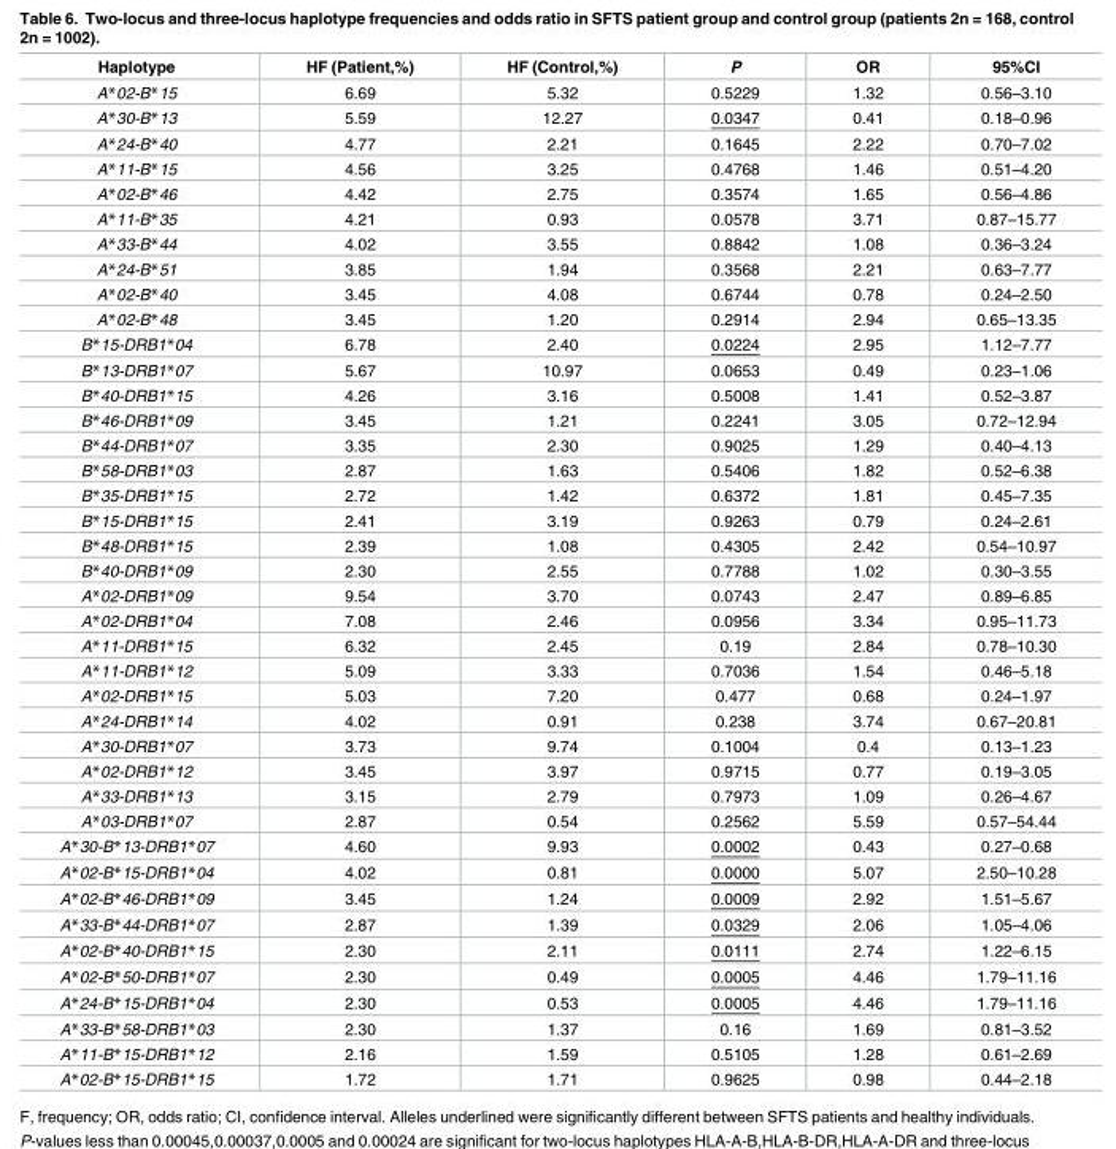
<table><thead><tr><td>Haplotype</td><td>HF (Patient,%)</td><td>HF (Control,%)</td><td>P</td><td>OR</td><td>95%CI</td></tr></thead><tbody><tr><td>A*02-B*15</td><td>6.69</td><td>5.32</td><td>0.5229</td><td>1.32</td><td>0.56–3.10</td></tr><tr><td>A*30-B*13</td><td>5.59</td><td>12.27</td><td>0.0347</td><td>0.41</td><td>0.18–0.96</td></tr><tr><td>A*24-B*40</td><td>4.77</td><td>2.21</td><td>0.1645</td><td>2.22</td><td>0.70–7.02</td></tr><tr><td>A*11-B*15</td><td>4.56</td><td>3.25</td><td>0.4768</td><td>1.46</td><td>0.51–4.20</td></tr><tr><td>A*02-B*46</td><td>4.42</td><td>2.75</td><td>0.3574</td><td>1.65</td><td>0.56–4.86</td></tr><tr><td>A*11-B*35</td><td>4.21</td><td>0.93</td><td>0.0578</td><td>3.71</td><td>0.87–15.77</td></tr><tr><td>A*33-B*44</td><td>4.02</td><td>3.55</td><td>0.8842</td><td>1.08</td><td>0.36–3.24</td></tr><tr><td>A*24-B*51</td><td>3.85</td><td>1.94</td><td>0.3568</td><td>2.21</td><td>0.63–7.77</td></tr><tr><td>A*02-B*40</td><td>3.45</td><td>4.08</td><td>0.6744</td><td>0.78</td><td>0.24–2.50</td></tr><tr><td>A*02-B*48</td><td>3.45</td><td>1.20</td><td>0.2914</td><td>2.94</td><td>0.65–13.35</td></tr><tr><td>B*15-DRB1*04</td><td>6.78</td><td>2.40</td><td>0.0224</td><td>2.95</td><td>1.12–7.77</td></tr><tr><td>B*13-DRB1*07</td><td>5.67</td><td>10.97</td><td>0.0653</td><td>0.49</td><td>0.23–1.06</td></tr><tr><td>B*40-DRB1*15</td><td>4.26</td><td>3.16</td><td>0.5008</td><td>1.41</td><td>0.52–3.87</td></tr><tr><td>B*46-DRB1*09</td><td>3.45</td><td>1.21</td><td>0.2241</td><td>3.05</td><td>0.72–12.94</td></tr><tr><td>B*44-DRB1*07</td><td>3.35</td><td>2.30</td><td>0.9025</td><td>1.29</td><td>0.40–4.13</td></tr><tr><td>B*58-DRB1*03</td><td>2.87</td><td>1.63</td><td>0.5406</td><td>1.82</td><td>0.52–6.38</td></tr><tr><td>B*35-DRB1*15</td><td>2.72</td><td>1.42</td><td>0.6372</td><td>1.81</td><td>0.45–7.35</td></tr><tr><td>B*15-DRB1*15</td><td>2.41</td><td>3.19</td><td>0.9263</td><td>0.79</td><td>0.24–2.61</td></tr><tr><td>B*48-DRB1*15</td><td>2.39</td><td>1.08</td><td>0.4305</td><td>2.42</td><td>0.54–10.97</td></tr><tr><td>B*40-DRB1*09</td><td>2.30</td><td>2.55</td><td>0.7788</td><td>1.02</td><td>0.30–3.55</td></tr><tr><td>A*02-DRB1*09</td><td>9.54</td><td>3.70</td><td>0.0743</td><td>2.47</td><td>0.89–6.85</td></tr><tr><td>A*02-DRB1*04</td><td>7.08</td><td>2.46</td><td>0.0956</td><td>3.34</td><td>0.95–11.73</td></tr><tr><td>A*11-DRB1*15</td><td>6.32</td><td>2.45</td><td>0.19</td><td>2.84</td><td>0.78–10.30</td></tr><tr><td>A*11-DRB1*12</td><td>5.09</td><td>3.33</td><td>0.7036</td><td>1.54</td><td>0.46–5.18</td></tr><tr><td>A*02-DRB1*15</td><td>5.03</td><td>7.20</td><td>0.477</td><td>0.68</td><td>0.24–1.97</td></tr><tr><td>A*24-DRB1*14</td><td>4.02</td><td>0.91</td><td>0.238</td><td>3.74</td><td>0.67–20.81</td></tr><tr><td>A*30-DRB1*07</td><td>3.73</td><td>9.74</td><td>0.1004</td><td>0.4</td><td>0.13–1.23</td></tr><tr><td>A*02-DRB1*12</td><td>3.45</td><td>3.97</td><td>0.9715</td><td>0.77</td><td>0.19–3.05</td></tr><tr><td>A*33-DRB1*13</td><td>3.15</td><td>2.79</td><td>0.7973</td><td>1.09</td><td>0.26–4.67</td></tr><tr><td>A*03-DRB1*07</td><td>2.87</td><td>0.54</td><td>0.2562</td><td>5.59</td><td>0.57–54.44</td></tr><tr><td>A*30-B*13-DRB1*07</td><td>4.60</td><td>9.93</td><td>0.0002</td><td>0.43</td><td>0.27–0.68</td></tr><tr><td>A*02-B*15-DRB1*04</td><td>4.02</td><td>0.81</td><td>0.0000</td><td>5.07</td><td>2.50–10.28</td></tr><tr><td>A*02-B*46-DRB1*09</td><td>3.45</td><td>1.24</td><td>0.0009</td><td>2.92</td><td>1.51–5.67</td></tr><tr><td>A*33-B*44-DRB1*07</td><td>2.87</td><td>1.39</td><td>0.0329</td><td>2.06</td><td>1.05–4.06</td></tr><tr><td>A*02-B*40-DRB1*15</td><td>2.30</td><td>2.11</td><td>0.0111</td><td>2.74</td><td>1.22–6.15</td></tr><tr><td>A*02-B*50-DRB1*07</td><td>2.30</td><td>0.49</td><td>0.0005</td><td>4.46</td><td>1.79–11.16</td></tr><tr><td>A*24-B*15-DRB1*04</td><td>2.30</td><td>0.53</td><td>0.0005</td><td>4.46</td><td>1.79–11.16</td></tr><tr><td>A*33-B*58-DRB1*03</td><td>2.30</td><td>1.37</td><td>0.16</td><td>1.69</td><td>0.81–3.52</td></tr><tr><td>A*11-B*15-DRB1*12</td><td>2.16</td><td>1.59</td><td>0.5105</td><td>1.28</td><td>0.61–2.69</td></tr><tr><td>A*02-B*15-DRB1*15</td><td>1.72</td><td>1.71</td><td>0.9625</td><td>0.98</td><td>0.44–2.18</td></tr></tbody></table>